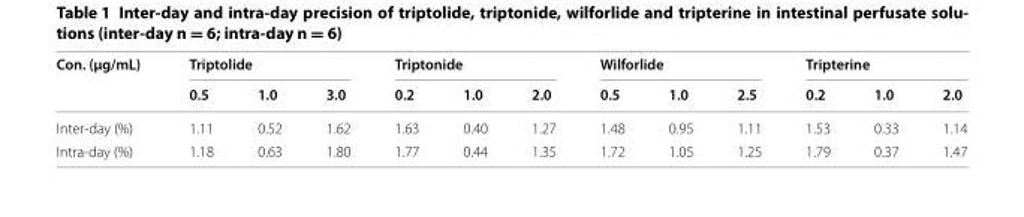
<table><thead><tr><td rowspan="2">Con. (μg/mL)</td><td colspan="3">Triptolide</td><td colspan="3">Triptonide</td><td colspan="3">Wilforlide</td><td colspan="3">Tripterine</td></tr><tr><td>0.5</td><td>1.0</td><td>3.0</td><td>0.2</td><td>1.0</td><td>2.0</td><td>0.5</td><td>1.0</td><td>2.5</td><td>0.2</td><td>1.0</td><td>2.0</td></tr></thead><tbody><tr><td>Inter-day (%)</td><td>1.11</td><td>0.52</td><td>1.62</td><td>1.63</td><td>0.40</td><td>1.27</td><td>1.48</td><td>0.95</td><td>1.11</td><td>1.53</td><td>0.33</td><td>1.14</td></tr><tr><td>Intra-day (%)</td><td>1.18</td><td>0.63</td><td>1.80</td><td>1.77</td><td>0.44</td><td>1.35</td><td>1.72</td><td>1.05</td><td>1.25</td><td>1.79</td><td>0.37</td><td>1.47</td></tr></tbody></table>